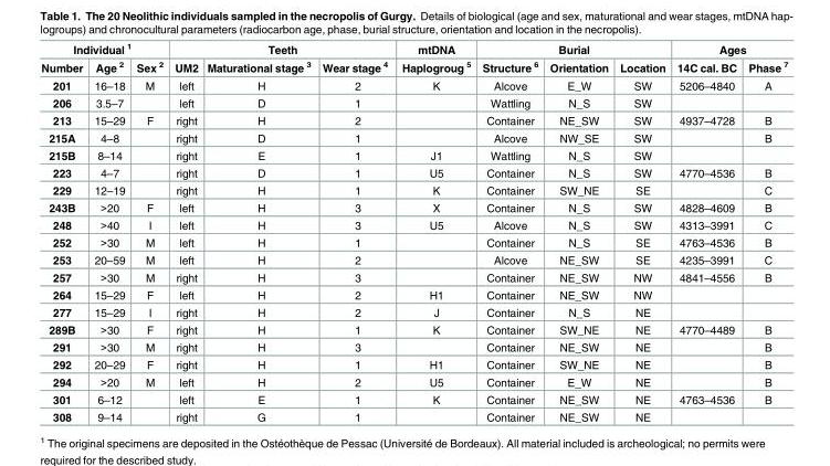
<table><thead><tr><td colspan="3">Individual <sup>1</sup></td><td colspan="3">Teeth</td><td rowspan="2">mtDNA Haplogroug <sup>5</sup></td><td colspan="3">Burial</td><td colspan="2">Ages</td></tr><tr><td>Number</td><td>Age <sup>2</sup></td><td>Sex <sup>2</sup></td><td>UM2</td><td>Maturational stage <sup>3</sup></td><td>Wear stage <sup>4</sup></td><td>Structure <sup>6</sup></td><td>Orientation</td><td>Location</td><td>14C cal. BC</td><td>Phase <sup>7</sup></td></tr></thead><tbody><tr><td>201</td><td>16–18</td><td>M</td><td>left</td><td>H</td><td>2</td><td>K</td><td>Alcove</td><td>E_W</td><td>SW</td><td>5206–4840</td><td>A</td></tr><tr><td>206</td><td>3.5–7</td><td></td><td>left</td><td>D</td><td>1</td><td></td><td>Wattling</td><td>N_S</td><td>SW</td><td></td><td></td></tr><tr><td>213</td><td>15–29</td><td>F</td><td>right</td><td>H</td><td>2</td><td></td><td>Container</td><td>NE_SW</td><td>SW</td><td>4937–4728</td><td>B</td></tr><tr><td>215A</td><td>4–8</td><td></td><td>right</td><td>D</td><td>1</td><td></td><td>Alcove</td><td>NW_SE</td><td>SW</td><td></td><td>B</td></tr><tr><td>215B</td><td>8–14</td><td></td><td>right</td><td>E</td><td>1</td><td>J1</td><td>Wattling</td><td>N_S</td><td>SW</td><td></td><td></td></tr><tr><td>223</td><td>4–7</td><td></td><td>right</td><td>D</td><td>1</td><td>U5</td><td>Container</td><td>N_S</td><td>SW</td><td>4770–4536</td><td>B</td></tr><tr><td>229</td><td>12–19</td><td></td><td>right</td><td>H</td><td>1</td><td>K</td><td>Container</td><td>SW_NE</td><td>SE</td><td></td><td>C</td></tr><tr><td>243B</td><td>&gt;20</td><td>F</td><td>left</td><td>H</td><td>3</td><td>X</td><td>Container</td><td>N_S</td><td>SW</td><td>4828–4609</td><td>B</td></tr><tr><td>248</td><td>&gt;40</td><td>I</td><td>left</td><td>H</td><td>3</td><td>U5</td><td>Alcove</td><td>N_S</td><td>SW</td><td>4313–3991</td><td>C</td></tr><tr><td>252</td><td>&gt;30</td><td>M</td><td>left</td><td>H</td><td>1</td><td></td><td>Container</td><td>N_S</td><td>SE</td><td>4763–4536</td><td>B</td></tr><tr><td>253</td><td>20–59</td><td>M</td><td>left</td><td>H</td><td>2</td><td></td><td>Alcove</td><td>NE_SW</td><td>SE</td><td>4235–3991</td><td>C</td></tr><tr><td>257</td><td>&gt;30</td><td>M</td><td>right</td><td>H</td><td>3</td><td></td><td>Container</td><td>NE_SW</td><td>NW</td><td>4841–4556</td><td>B</td></tr><tr><td>264</td><td>15–29</td><td>F</td><td>left</td><td>H</td><td>2</td><td>H1</td><td>Container</td><td>NE_SW</td><td>NW</td><td></td><td></td></tr><tr><td>277</td><td>15–29</td><td>I</td><td>right</td><td>H</td><td>2</td><td>J</td><td>Container</td><td>N_S</td><td>NE</td><td></td><td></td></tr><tr><td>289B</td><td>&gt;30</td><td>F</td><td>right</td><td>H</td><td>1</td><td>K</td><td>Container</td><td>SW_NE</td><td>NE</td><td>4770–4489</td><td>B</td></tr><tr><td>291</td><td>&gt;30</td><td>M</td><td>right</td><td>H</td><td>3</td><td></td><td>Container</td><td>NE_SW</td><td>NE</td><td></td><td>B</td></tr><tr><td>292</td><td>20–29</td><td>F</td><td>right</td><td>H</td><td>1</td><td>H1</td><td>Container</td><td>SW_NE</td><td>NE</td><td></td><td>B</td></tr><tr><td>294</td><td>&gt;20</td><td>M</td><td>left</td><td>H</td><td>2</td><td>U5</td><td>Container</td><td>E_W</td><td>NE</td><td></td><td>B</td></tr><tr><td>301</td><td>6–12</td><td></td><td>left</td><td>E</td><td>1</td><td>K</td><td>Container</td><td>NE_SW</td><td>NE</td><td>4763–4536</td><td>B</td></tr><tr><td>308</td><td>9–14</td><td></td><td>right</td><td>G</td><td>1</td><td></td><td>Container</td><td>NE_SW</td><td>NE</td><td></td><td></td></tr></tbody></table>